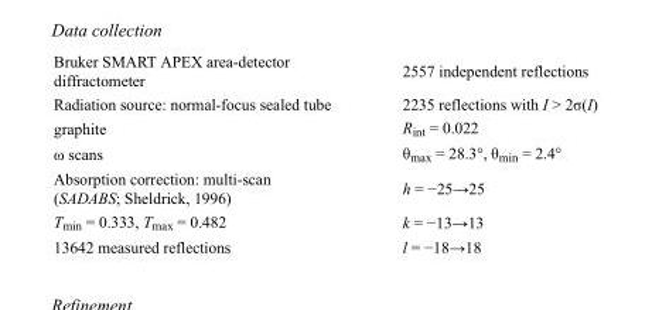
<table><tbody><tr><td>Bruker SMART APEX area-detector diffractometer</td><td>2557 independent reflections</td></tr><tr><td>Radiation source: normal-focus sealed tube</td><td>2235 reflections with I &gt; 2σ(I)</td></tr><tr><td>graphite</td><td>R<sub>int</sub> = 0.022</td></tr><tr><td>ω scans</td><td>θ<sub>max</sub> = 28.3°, θ<sub>min</sub> = 2.4°</td></tr><tr><td>Absorption correction: multi-scan (SADABS; Sheldrick, 1996)</td><td>h = −25→25</td></tr><tr><td>T<sub>min</sub> = 0.333, T<sub>max</sub> = 0.482</td><td>k = −13→13</td></tr><tr><td>13642 measured reflections</td><td>l = −18→18</td></tr></tbody></table>